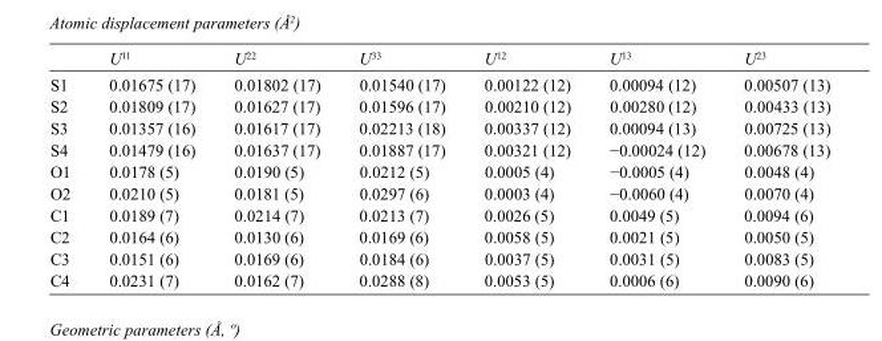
<table><thead><tr><td></td><td>U<sup>11</sup></td><td>U<sup>22</sup></td><td>U<sup>33</sup></td><td>U<sup>12</sup></td><td>U<sup>13</sup></td><td>U<sup>23</sup></td></tr></thead><tbody><tr><td>S1</td><td>0.01675 (17)</td><td>0.01802 (17)</td><td>0.01540 (17)</td><td>0.00122 (12)</td><td>0.00094 (12)</td><td>0.00507 (13)</td></tr><tr><td>S2</td><td>0.01809 (17)</td><td>0.01627 (17)</td><td>0.01596 (17)</td><td>0.00210 (12)</td><td>0.00280 (12)</td><td>0.00433 (13)</td></tr><tr><td>S3</td><td>0.01357 (16)</td><td>0.01617 (17)</td><td>0.02213 (18)</td><td>0.00337 (12)</td><td>0.00094 (13)</td><td>0.00725 (13)</td></tr><tr><td>S4</td><td>0.01479 (16)</td><td>0.01637 (17)</td><td>0.01887 (17)</td><td>0.00321 (12)</td><td>−0.00024 (12)</td><td>0.00678 (13)</td></tr><tr><td>O1</td><td>0.0178 (5)</td><td>0.0190 (5)</td><td>0.0212 (5)</td><td>0.0005 (4)</td><td>−0.0005 (4)</td><td>0.0048 (4)</td></tr><tr><td>O2</td><td>0.0210 (5)</td><td>0.0181 (5)</td><td>0.0297 (6)</td><td>0.0003 (4)</td><td>−0.0060 (4)</td><td>0.0070 (4)</td></tr><tr><td>C1</td><td>0.0189 (7)</td><td>0.0214 (7)</td><td>0.0213 (7)</td><td>0.0026 (5)</td><td>0.0049 (5)</td><td>0.0094 (6)</td></tr><tr><td>C2</td><td>0.0164 (6)</td><td>0.0130 (6)</td><td>0.0169 (6)</td><td>0.0058 (5)</td><td>0.0021 (5)</td><td>0.0050 (5)</td></tr><tr><td>C3</td><td>0.0151 (6)</td><td>0.0169 (6)</td><td>0.0184 (6)</td><td>0.0037 (5)</td><td>0.0031 (5)</td><td>0.0083 (5)</td></tr><tr><td>C4</td><td>0.0231 (7)</td><td>0.0162 (7)</td><td>0.0288 (8)</td><td>0.0053 (5)</td><td>0.0006 (6)</td><td>0.0090 (6)</td></tr></tbody></table>